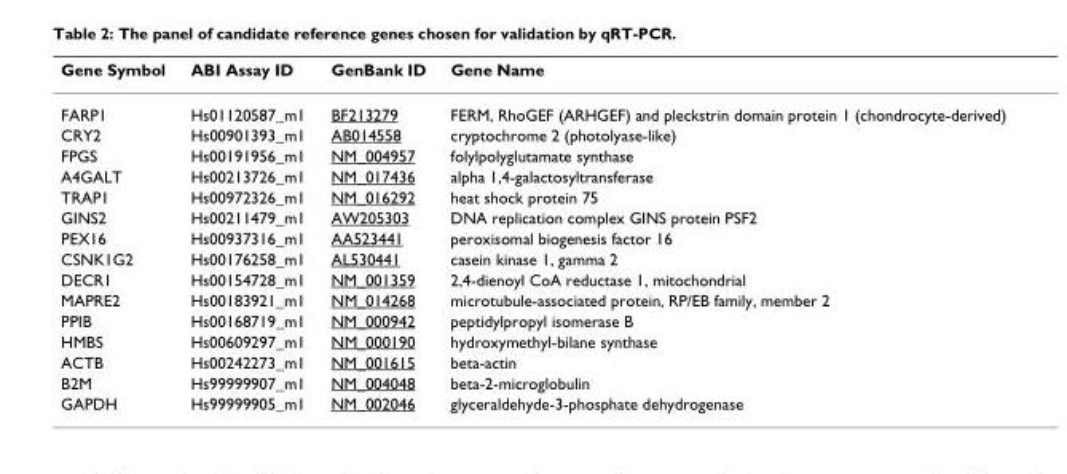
<table><thead><tr><td>Gene Symbol</td><td>ABI Assay ID</td><td>GenBank ID</td><td>Gene Name</td></tr></thead><tbody><tr><td>FARP1</td><td>Hs01120587_m1</td><td>BF213279</td><td>FERM, RhoGEF (ARHGEF) and pleckstrin domain protein 1 (chondrocyte-derived)</td></tr><tr><td>CRY2</td><td>Hs00901393_m1</td><td>AB014558</td><td>cryptochrome 2 (photolyase-like)</td></tr><tr><td>FPGS</td><td>Hs00191956_m1</td><td>NM_004957</td><td>folylpolyglutamate synthase</td></tr><tr><td>A4GALT</td><td>Hs00213726_m1</td><td>NM_017436</td><td>alpha 1,4-galactosyltransferase</td></tr><tr><td>TRAP1</td><td>Hs00972326_m1</td><td>NM_016292</td><td>heat shock protein 75</td></tr><tr><td>GINS2</td><td>Hs00211479_m1</td><td>AW205303</td><td>DNA replication complex GINS protein PSF2</td></tr><tr><td>PEX16</td><td>Hs00937316_m1</td><td>AA523441</td><td>peroxisomal biogenesis factor 16</td></tr><tr><td>CSNK1G2</td><td>Hs00176258_m1</td><td>AL530441</td><td>casein kinase 1, gamma 2</td></tr><tr><td>DECR1</td><td>Hs00154728_m1</td><td>NM_001359</td><td>2,4-dienoyl CoA reductase 1, mitochondrial</td></tr><tr><td>MAPRE2</td><td>Hs00183921_m1</td><td>NM_014268</td><td>microtubule-associated protein, RP/EB family, member 2</td></tr><tr><td>PPIB</td><td>Hs00168719_m1</td><td>NM_000942</td><td>peptidylpropyl isomerase B</td></tr><tr><td>HMBS</td><td>Hs00609297_m1</td><td>NM_000190</td><td>hydroxymethyl-bilane synthase</td></tr><tr><td>ACTB</td><td>Hs00242273_m1</td><td>NM_001615</td><td>beta-actin</td></tr><tr><td>B2M</td><td>Hs99999907_m1</td><td>NM_004048</td><td>beta-2-microglobulin</td></tr><tr><td>GAPDH</td><td>Hs99999905_m1</td><td>NM_002046</td><td>glyceraldehyde-3-phosphate dehydrogenase</td></tr></tbody></table>